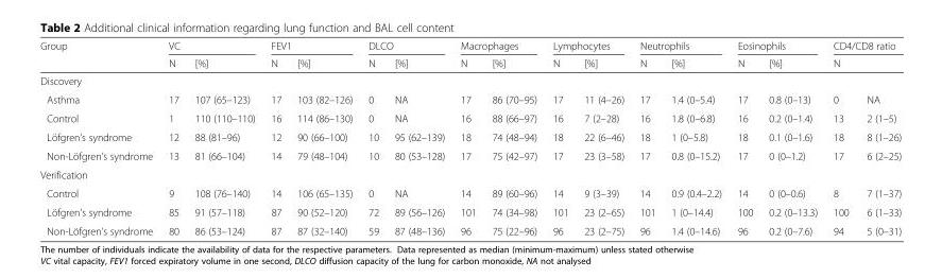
<table><thead><tr><td rowspan="2">Group</td><td colspan="2">VC</td><td colspan="2">FEV1</td><td colspan="2">DLCO</td><td colspan="2">Macrophages</td><td colspan="2">Lymphocytes</td><td colspan="2">Neutrophils</td><td colspan="2">Eosinophils</td><td colspan="2">CD4/CD8 ratio</td></tr><tr><td>N</td><td>[%]</td><td>N</td><td>[%]</td><td>N</td><td>[%]</td><td>N</td><td>[%]</td><td>N</td><td>[%]</td><td>N</td><td>[%]</td><td>N</td><td>[%]</td><td>N</td><td></td></tr></thead><tbody><tr><td colspan="17">Discovery</td></tr><tr><td>Asthma</td><td>17</td><td>107 (65–123)</td><td>17</td><td>103 (82–126)</td><td>0</td><td>NA</td><td>17</td><td>86 (70–95)</td><td>17</td><td>11 (4–26)</td><td>17</td><td>1.4 (0–5.4)</td><td>17</td><td>0.8 (0–13)</td><td>0</td><td>NA</td></tr><tr><td>Control</td><td>1</td><td>110 (110–110)</td><td>16</td><td>114 (86–130)</td><td>0</td><td>NA</td><td>16</td><td>88 (66–97)</td><td>16</td><td>7 (2–28)</td><td>16</td><td>1.8 (0–6.8)</td><td>16</td><td>0.2 (0–1.4)</td><td>13</td><td>2 (1–5)</td></tr><tr><td>Löfgren’s syndrome</td><td>12</td><td>88 (81–96)</td><td>12</td><td>90 (66–100)</td><td>10</td><td>95 (62–139)</td><td>18</td><td>74 (48–94)</td><td>18</td><td>22 (6–46)</td><td>18</td><td>1 (0–5.8)</td><td>18</td><td>0.1 (0–1.6)</td><td>18</td><td>8 (1–26)</td></tr><tr><td>Non-Löfgren’s syndrome</td><td>13</td><td>81 (66–104)</td><td>14</td><td>79 (48–104)</td><td>10</td><td>80 (53–128)</td><td>17</td><td>75 (42–97)</td><td>17</td><td>23 (3–58)</td><td>17</td><td>0.8 (0–15.2)</td><td>17</td><td>0 (0–1.2)</td><td>17</td><td>6 (2–25)</td></tr><tr><td colspan="17">Verification</td></tr><tr><td>Control</td><td>9</td><td>108 (76–140)</td><td>14</td><td>106 (65–135)</td><td>0</td><td>NA</td><td>14</td><td>89 (60–96)</td><td>14</td><td>9 (3–39)</td><td>14</td><td>0.9 (0.4–2.2)</td><td>14</td><td>0 (0–0.6)</td><td>8</td><td>7 (1–37)</td></tr><tr><td>Löfgren’s syndrome</td><td>85</td><td>91 (57–118)</td><td>87</td><td>90 (52–120)</td><td>72</td><td>89 (56–126)</td><td>101</td><td>74 (34–98)</td><td>101</td><td>23 (2–65)</td><td>101</td><td>1 (0–14.4)</td><td>100</td><td>0.2 (0–13.3)</td><td>100</td><td>6 (1–33)</td></tr><tr><td>Non-Löfgren’s syndrome</td><td>80</td><td>86 (53–124)</td><td>87</td><td>87 (32–140)</td><td>59</td><td>87 (48–136)</td><td>96</td><td>75 (22–96)</td><td>96</td><td>23 (2–75)</td><td>96</td><td>1.4 (0–14.6)</td><td>96</td><td>0.2 (0–7.6)</td><td>94</td><td>5 (0–31)</td></tr></tbody></table>